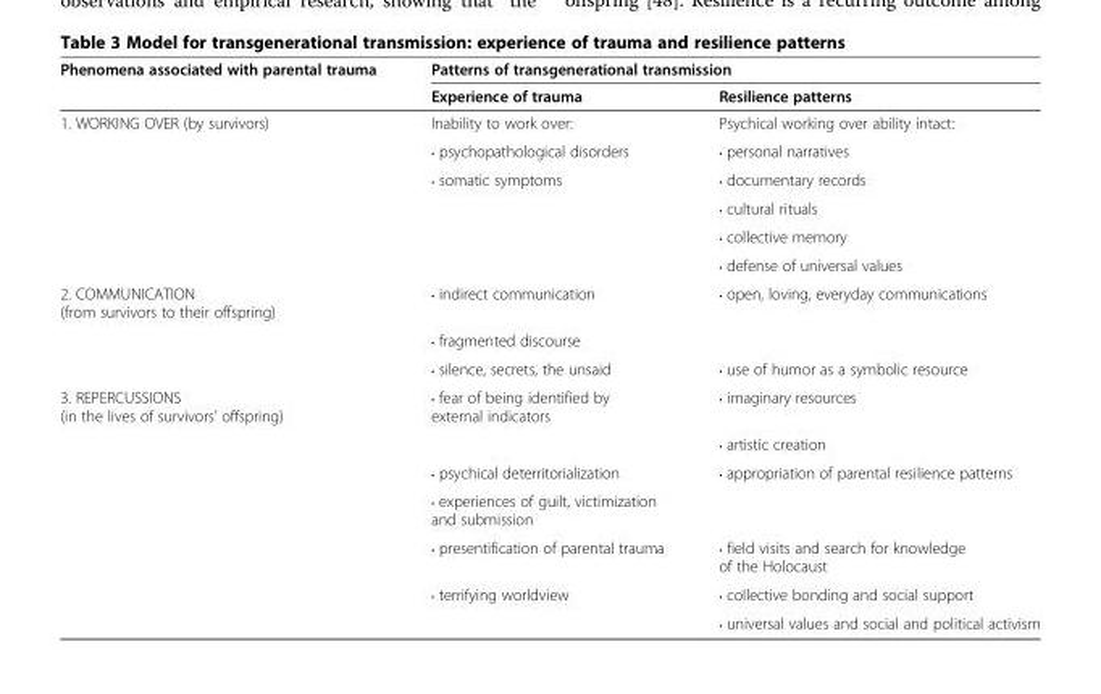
<table><thead><tr><td rowspan="2">Phenomena associated with parental trauma</td><td colspan="2">Patterns of transgenerational transmission</td></tr><tr><td>Experience of trauma</td><td>Resilience patterns</td></tr></thead><tbody><tr><td rowspan="6">1. WORKING OVER (by survivors)</td><td>Inability to work over:</td><td>Psychical working over ability intact:</td></tr><tr><td>• psychopathological disorders</td><td>• personal narratives</td></tr><tr><td>• somatic symptoms</td><td>• documentary records</td></tr><tr><td></td><td>• cultural rituals</td></tr><tr><td></td><td>• collective memory</td></tr><tr><td></td><td>• defense of universal values</td></tr><tr><td rowspan="3">2. COMMUNICATION (from survivors to their offspring)</td><td>• indirect communication</td><td>• open, loving, everyday communications</td></tr><tr><td>• fragmented discourse</td><td></td></tr><tr><td>• silence, secrets, the unsaid</td><td>• use of humor as a symbolic resource</td></tr><tr><td rowspan="7">3. REPERCUSSIONS (in the lives of survivors’ offspring)</td><td>• fear of being identified by external indicators</td><td>• imaginary resources</td></tr><tr><td></td><td>• artistic creation</td></tr><tr><td>• psychical deterritorialization</td><td>• appropriation of parental resilience patterns</td></tr><tr><td>• experiences of guilt, victimization and submission</td><td></td></tr><tr><td>• presentification of parental trauma</td><td>• field visits and search for knowledge of the Holocaust</td></tr><tr><td>• terrifying worldview</td><td>• collective bonding and social support</td></tr><tr><td></td><td>• universal values and social and political activism</td></tr></tbody></table>